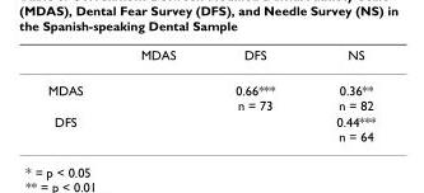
<table><thead><tr><td></td><td>MDAS</td><td>DFS</td><td>NS</td></tr></thead><tbody><tr><td>MDAS</td><td></td><td>0.66*** n = 73</td><td>0.36** n = 82</td></tr><tr><td>DFS</td><td></td><td></td><td>0.44*** n = 64</td></tr></tbody></table>